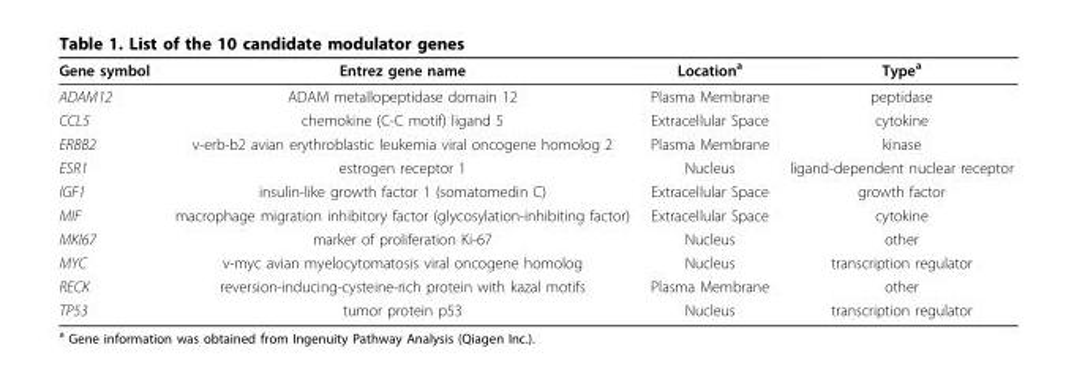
<table><tbody><tr><td>Gene symbol</td><td>Entrez gene name</td><td>Location<sup>a</sup></td><td>Type<sup>a</sup></td></tr><tr><td>ADAM12</td><td>ADAM metallopeptidase domain 12</td><td>Plasma Membrane</td><td>peptidase</td></tr><tr><td>CCL5</td><td>chemokine (C-C motif) ligand 5</td><td>Extracellular Space</td><td>cytokine</td></tr><tr><td>ERBB2</td><td>v-erb-b2 avian erythroblastic leukemia viral oncogene homolog 2</td><td>Plasma Membrane</td><td>kinase</td></tr><tr><td>ESR1</td><td>estrogen receptor 1</td><td>Nucleus</td><td>ligand-dependent nuclear receptor</td></tr><tr><td>IGF1</td><td>insulin-like growth factor 1 (somatomedin C)</td><td>Extracellular Space</td><td>growth factor</td></tr><tr><td>MIF</td><td>macrophage migration inhibitory factor (glycosylation-inhibiting factor)</td><td>Extracellular Space</td><td>cytokine</td></tr><tr><td>MKI67</td><td>marker of proliferation Ki-67</td><td>Nucleus</td><td>other</td></tr><tr><td>MYC</td><td>v-myc avian myelocytomatosis viral oncogene homolog</td><td>Nucleus</td><td>transcription regulator</td></tr><tr><td>RECK</td><td>reversion-inducing-cysteine-rich protein with kazal motifs</td><td>Plasma Membrane</td><td>other</td></tr><tr><td>TP53</td><td>tumor protein p53</td><td>Nucleus</td><td>transcription regulator</td></tr></tbody></table>